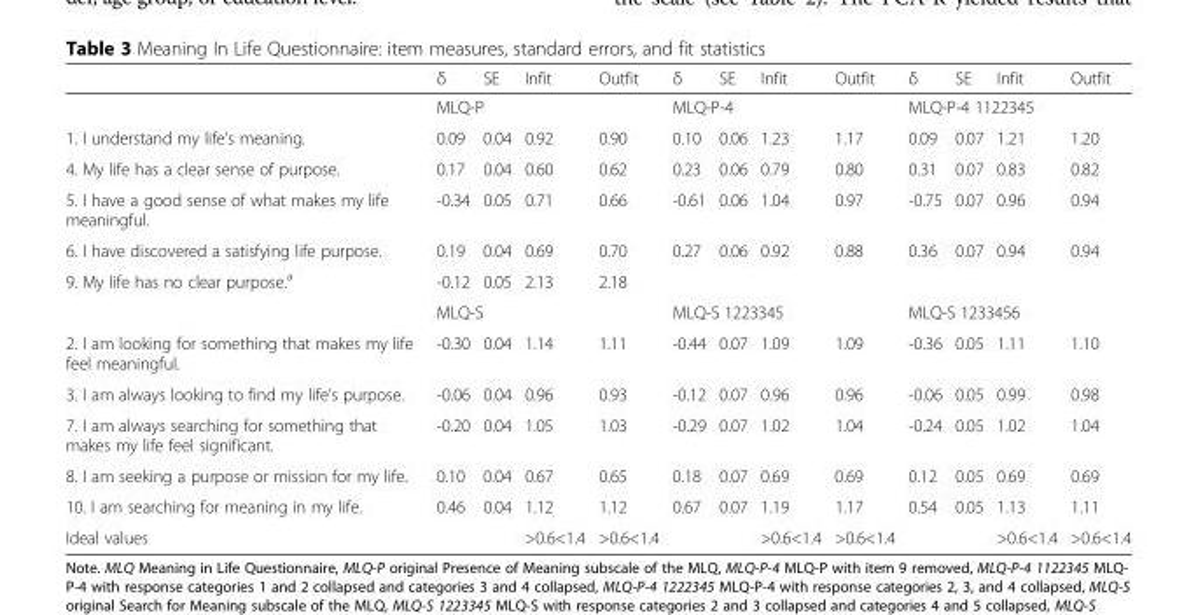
<table><thead><tr><td></td><td>δ</td><td>SE</td><td>Infit</td><td>Outfit</td><td>δ</td><td>SE</td><td>Infit</td><td>Outfit</td><td>δ</td><td>SE</td><td>Infit</td><td>Outfit</td></tr></thead><tbody><tr><td></td><td colspan="4">MLQ-P</td><td colspan="4">MLQ-P-4</td><td colspan="4">MLQ-P-4 1122345</td></tr><tr><td>1. I understand my life’s meaning.</td><td>0.09</td><td>0.04</td><td>0.92</td><td>0.90</td><td>0.10</td><td>0.06</td><td>1.23</td><td>1.17</td><td>0.09</td><td>0.07</td><td>1.21</td><td>1.20</td></tr><tr><td>4. My life has a clear sense of purpose.</td><td>0.17</td><td>0.04</td><td>0.60</td><td>0.62</td><td>0.23</td><td>0.06</td><td>0.79</td><td>0.80</td><td>0.31</td><td>0.07</td><td>0.83</td><td>0.82</td></tr><tr><td>5. I have a good sense of what makes my life meaningful.</td><td>-0.34</td><td>0.05</td><td>0.71</td><td>0.66</td><td>-0.61</td><td>0.06</td><td>1.04</td><td>0.97</td><td>-0.75</td><td>0.07</td><td>0.96</td><td>0.94</td></tr><tr><td>6. I have discovered a satisfying life purpose.</td><td>0.19</td><td>0.04</td><td>0.69</td><td>0.70</td><td>0.27</td><td>0.06</td><td>0.92</td><td>0.88</td><td>0.36</td><td>0.07</td><td>0.94</td><td>0.94</td></tr><tr><td rowspan="2">9. My life has no clear purpose.<sup>a</sup></td><td>-0.12</td><td>0.05</td><td>2.13</td><td>2.18</td><td></td><td></td><td></td><td></td><td></td><td></td><td></td><td></td></tr><tr><td colspan="4">MLQ-S</td><td colspan="4">MLQ-S 1223345</td><td colspan="4">MLQ-S 1233456</td></tr><tr><td>2. I am looking for something that makes my life feel meaningful.</td><td>-0.30</td><td>0.04</td><td>1.14</td><td>1.11</td><td>-0.44</td><td>0.07</td><td>1.09</td><td>1.09</td><td>-0.36</td><td>0.05</td><td>1.11</td><td>1.10</td></tr><tr><td>3. I am always looking to find my life’s purpose.</td><td>-0.06</td><td>0.04</td><td>0.96</td><td>0.93</td><td>-0.12</td><td>0.07</td><td>0.96</td><td>0.96</td><td>-0.06</td><td>0.05</td><td>0.99</td><td>0.98</td></tr><tr><td>7. I am always searching for something that makes my life feel significant.</td><td>-0.20</td><td>0.04</td><td>1.05</td><td>1.03</td><td>-0.29</td><td>0.07</td><td>1.02</td><td>1.04</td><td>-0.24</td><td>0.05</td><td>1.02</td><td>1.04</td></tr><tr><td>8. I am seeking a purpose or mission for my life.</td><td>0.10</td><td>0.04</td><td>0.67</td><td>0.65</td><td>0.18</td><td>0.07</td><td>0.69</td><td>0.69</td><td>0.12</td><td>0.05</td><td>0.69</td><td>0.69</td></tr><tr><td>10. I am searching for meaning in my life.</td><td>0.46</td><td>0.04</td><td>1.12</td><td>1.12</td><td>0.67</td><td>0.07</td><td>1.19</td><td>1.17</td><td>0.54</td><td>0.05</td><td>1.13</td><td>1.11</td></tr><tr><td>Ideal values</td><td></td><td></td><td>&gt;0.6&lt;1.4</td><td>&gt;0.6&lt;1.4</td><td></td><td></td><td>&gt;0.6&lt;1.4</td><td>&gt;0.6&lt;1.4</td><td></td><td></td><td>&gt;0.6&lt;1.4</td><td>&gt;0.6&lt;1.4</td></tr></tbody></table>